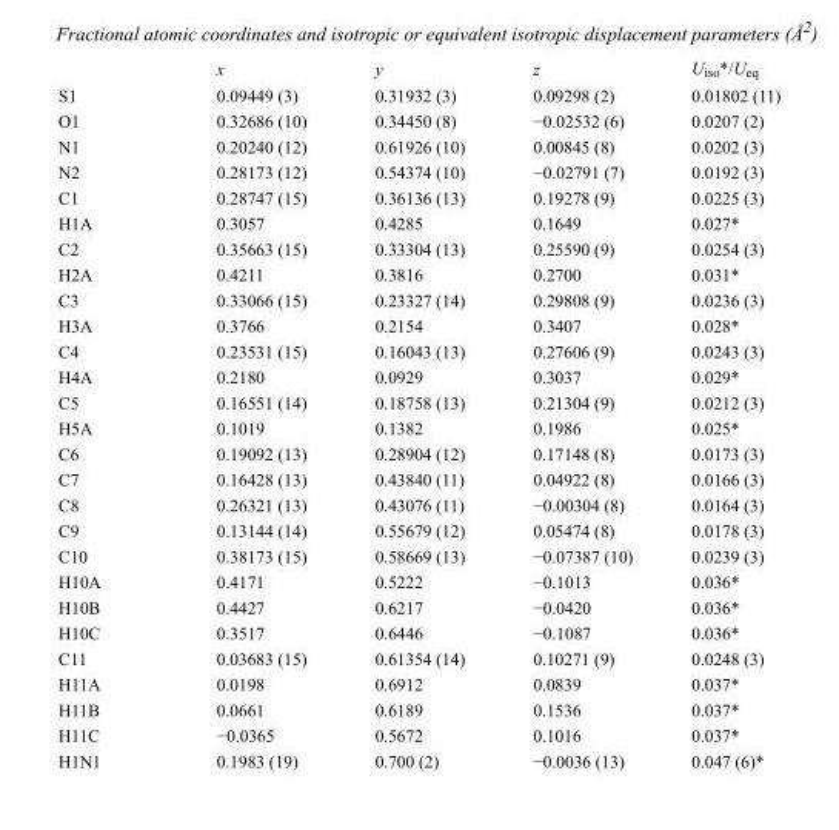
<table><thead><tr><td></td><td>x</td><td>y</td><td>z</td><td>U<sub>iso</sub>*/U<sub>eq</sub></td></tr></thead><tbody><tr><td>S1</td><td>0.09449 (3)</td><td>0.31932 (3)</td><td>0.09298 (2)</td><td>0.01802 (11)</td></tr><tr><td>O1</td><td>0.32686 (10)</td><td>0.34450 (8)</td><td>−0.02532 (6)</td><td>0.0207 (2)</td></tr><tr><td>N1</td><td>0.20240 (12)</td><td>0.61926 (10)</td><td>0.00845 (8)</td><td>0.0202 (3)</td></tr><tr><td>N2</td><td>0.28173 (12)</td><td>0.54374 (10)</td><td>−0.02791 (7)</td><td>0.0192 (3)</td></tr><tr><td>C1</td><td>0.28747 (15)</td><td>0.36136 (13)</td><td>0.19278 (9)</td><td>0.0225 (3)</td></tr><tr><td>H1A</td><td>0.3057</td><td>0.4285</td><td>0.1649</td><td>0.027*</td></tr><tr><td>C2</td><td>0.35663 (15)</td><td>0.33304 (13)</td><td>0.25590 (9)</td><td>0.0254 (3)</td></tr><tr><td>H2A</td><td>0.4211</td><td>0.3816</td><td>0.2700</td><td>0.031*</td></tr><tr><td>C3</td><td>0.33066 (15)</td><td>0.23327 (14)</td><td>0.29808 (9)</td><td>0.0236 (3)</td></tr><tr><td>H3A</td><td>0.3766</td><td>0.2154</td><td>0.3407</td><td>0.028*</td></tr><tr><td>C4</td><td>0.23531 (15)</td><td>0.16043 (13)</td><td>0.27606 (9)</td><td>0.0243 (3)</td></tr><tr><td>H4A</td><td>0.2180</td><td>0.0929</td><td>0.3037</td><td>0.029*</td></tr><tr><td>C5</td><td>0.16551 (14)</td><td>0.18758 (13)</td><td>0.21304 (9)</td><td>0.0212 (3)</td></tr><tr><td>H5A</td><td>0.1019</td><td>0.1382</td><td>0.1986</td><td>0.025*</td></tr><tr><td>C6</td><td>0.19092 (13)</td><td>0.28904 (12)</td><td>0.17148 (8)</td><td>0.0173 (3)</td></tr><tr><td>C7</td><td>0.16428 (13)</td><td>0.43840 (11)</td><td>0.04922 (8)</td><td>0.0166 (3)</td></tr><tr><td>C8</td><td>0.26321 (13)</td><td>0.43076 (11)</td><td>−0.00304 (8)</td><td>0.0164 (3)</td></tr><tr><td>C9</td><td>0.13144 (14)</td><td>0.55679 (12)</td><td>0.05474 (8)</td><td>0.0178 (3)</td></tr><tr><td>C10</td><td>0.38173 (15)</td><td>0.58669 (13)</td><td>−0.07387 (10)</td><td>0.0239 (3)</td></tr><tr><td>H10A</td><td>0.4171</td><td>0.5222</td><td>−0.1013</td><td>0.036*</td></tr><tr><td>H10B</td><td>0.4427</td><td>0.6217</td><td>−0.0420</td><td>0.036*</td></tr><tr><td>H10C</td><td>0.3517</td><td>0.6446</td><td>−0.1087</td><td>0.036*</td></tr><tr><td>C11</td><td>0.03683 (15)</td><td>0.61354 (14)</td><td>0.10271 (9)</td><td>0.0248 (3)</td></tr><tr><td>H11A</td><td>0.0198</td><td>0.6912</td><td>0.0839</td><td>0.037*</td></tr><tr><td>H11B</td><td>0.0661</td><td>0.6189</td><td>0.1536</td><td>0.037*</td></tr><tr><td>H11C</td><td>−0.0365</td><td>0.5672</td><td>0.1016</td><td>0.037*</td></tr><tr><td>H1N1</td><td>0.1983 (19)</td><td>0.700 (2)</td><td>−0.0036 (13)</td><td>0.047 (6)*</td></tr></tbody></table>